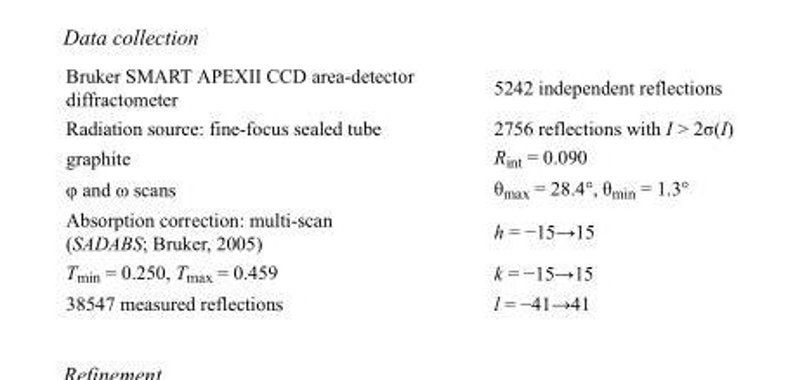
<table><tbody><tr><td>Bruker SMART APEXII CCD area-detector diffractometer</td><td>5242 independent reflections</td></tr><tr><td>Radiation source: fine-focus sealed tube</td><td>2756 reflections with I &gt; 2σ(I)</td></tr><tr><td>graphite</td><td>R<sub>int</sub> = 0.090</td></tr><tr><td>φ and ω scans</td><td>θ<sub>max</sub> = 28.4°, θ<sub>min</sub> = 1.3°</td></tr><tr><td>Absorption correction: multi-scan (SADABS; Bruker, 2005)</td><td>h = −15→15</td></tr><tr><td>T<sub>min</sub> = 0.250, T<sub>max</sub> = 0.459</td><td>k = −15→15</td></tr><tr><td>38547 measured reflections</td><td>l = −41→41</td></tr></tbody></table>